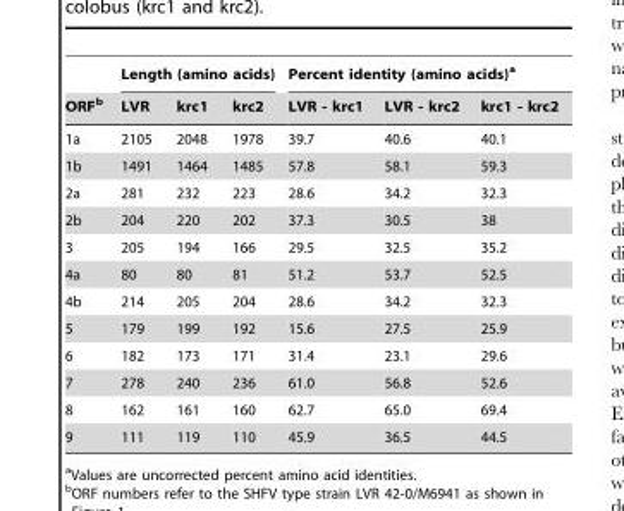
<table><thead><tr><td rowspan="2">ORF<sup>b</sup></td><td colspan="3">Length (amino acids)</td><td colspan="3">Percent identity (amino acids)<sup>a</sup></td></tr><tr><td>LVR</td><td>krc1</td><td>krc2</td><td>LVR - krc1</td><td>LVR - krc2</td><td>krc1 - krc2</td></tr></thead><tbody><tr><td>1a</td><td>2105</td><td>2048</td><td>1978</td><td>39.7</td><td>40.6</td><td>40.1</td></tr><tr><td>1b</td><td>1491</td><td>1464</td><td>1485</td><td>57.8</td><td>58.1</td><td>59.3</td></tr><tr><td>2a</td><td>281</td><td>232</td><td>223</td><td>28.6</td><td>34.2</td><td>32.3</td></tr><tr><td>2b</td><td>204</td><td>220</td><td>202</td><td>37.3</td><td>30.5</td><td>38</td></tr><tr><td>3</td><td>205</td><td>194</td><td>166</td><td>29.5</td><td>32.5</td><td>35.2</td></tr><tr><td>4a</td><td>80</td><td>80</td><td>81</td><td>51.2</td><td>53.7</td><td>52.5</td></tr><tr><td>4b</td><td>214</td><td>205</td><td>204</td><td>28.6</td><td>34.2</td><td>32.3</td></tr><tr><td>5</td><td>179</td><td>199</td><td>192</td><td>15.6</td><td>27.5</td><td>25.9</td></tr><tr><td>6</td><td>182</td><td>173</td><td>171</td><td>31.4</td><td>23.1</td><td>29.6</td></tr><tr><td>7</td><td>278</td><td>240</td><td>236</td><td>61.0</td><td>56.8</td><td>52.6</td></tr><tr><td>8</td><td>162</td><td>161</td><td>160</td><td>62.7</td><td>65.0</td><td>69.4</td></tr><tr><td>9</td><td>111</td><td>119</td><td>110</td><td>45.9</td><td>36.5</td><td>44.5</td></tr></tbody></table>